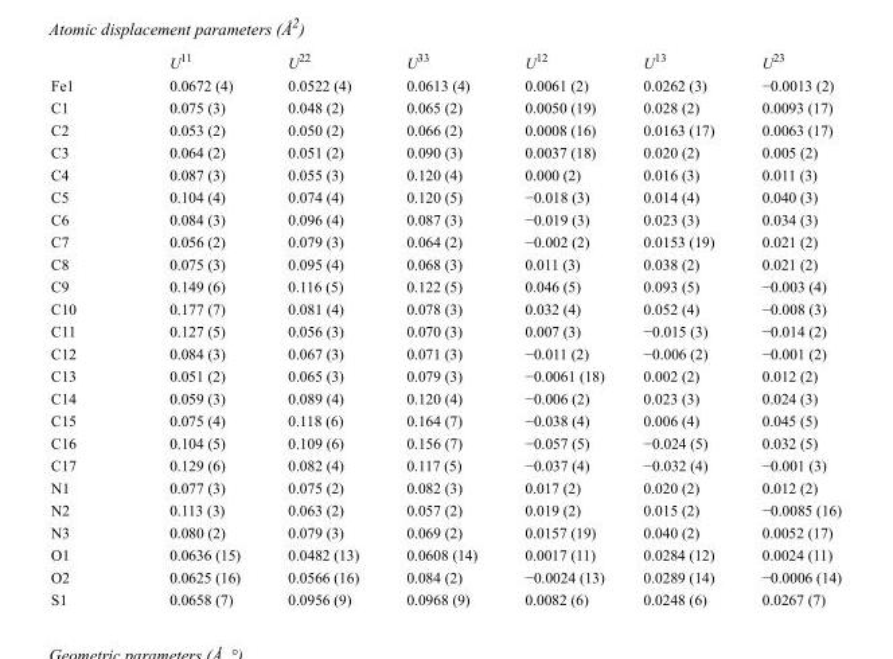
<table><thead><tr><td></td><td>U11</td><td>U22</td><td>U33</td><td>U12</td><td>U13</td><td>U23</td></tr></thead><tbody><tr><td>Fe1</td><td>0.0672 (4)</td><td>0.0522 (4)</td><td>0.0613 (4)</td><td>0.0061 (2)</td><td>0.0262 (3)</td><td>−0.0013 (2)</td></tr><tr><td>C1</td><td>0.075 (3)</td><td>0.048 (2)</td><td>0.065 (2)</td><td>0.0050 (19)</td><td>0.028 (2)</td><td>0.0093 (17)</td></tr><tr><td>C2</td><td>0.053 (2)</td><td>0.050 (2)</td><td>0.066 (2)</td><td>0.0008 (16)</td><td>0.0163 (17)</td><td>0.0063 (17)</td></tr><tr><td>C3</td><td>0.064 (2)</td><td>0.051 (2)</td><td>0.090 (3)</td><td>0.0037 (18)</td><td>0.020 (2)</td><td>0.005 (2)</td></tr><tr><td>C4</td><td>0.087 (3)</td><td>0.055 (3)</td><td>0.120 (4)</td><td>0.000 (2)</td><td>0.016 (3)</td><td>0.011 (3)</td></tr><tr><td>C5</td><td>0.104 (4)</td><td>0.074 (4)</td><td>0.120 (5)</td><td>−0.018 (3)</td><td>0.014 (4)</td><td>0.040 (3)</td></tr><tr><td>C6</td><td>0.084 (3)</td><td>0.096 (4)</td><td>0.087 (3)</td><td>−0.019 (3)</td><td>0.023 (3)</td><td>0.034 (3)</td></tr><tr><td>C7</td><td>0.056 (2)</td><td>0.079 (3)</td><td>0.064 (2)</td><td>−0.002 (2)</td><td>0.0153 (19)</td><td>0.021 (2)</td></tr><tr><td>C8</td><td>0.075 (3)</td><td>0.095 (4)</td><td>0.068 (3)</td><td>0.011 (3)</td><td>0.038 (2)</td><td>0.021 (2)</td></tr><tr><td>C9</td><td>0.149 (6)</td><td>0.116 (5)</td><td>0.122 (5)</td><td>0.046 (5)</td><td>0.093 (5)</td><td>−0.003 (4)</td></tr><tr><td>C10</td><td>0.177 (7)</td><td>0.081 (4)</td><td>0.078 (3)</td><td>0.032 (4)</td><td>0.052 (4)</td><td>−0.008 (3)</td></tr><tr><td>C11</td><td>0.127 (5)</td><td>0.056 (3)</td><td>0.070 (3)</td><td>0.007 (3)</td><td>−0.015 (3)</td><td>−0.014 (2)</td></tr><tr><td>C12</td><td>0.084 (3)</td><td>0.067 (3)</td><td>0.071 (3)</td><td>−0.011 (2)</td><td>−0.006 (2)</td><td>−0.001 (2)</td></tr><tr><td>C13</td><td>0.051 (2)</td><td>0.065 (3)</td><td>0.079 (3)</td><td>−0.0061 (18)</td><td>0.002 (2)</td><td>0.012 (2)</td></tr><tr><td>C14</td><td>0.059 (3)</td><td>0.089 (4)</td><td>0.120 (4)</td><td>−0.006 (2)</td><td>0.023 (3)</td><td>0.024 (3)</td></tr><tr><td>C15</td><td>0.075 (4)</td><td>0.118 (6)</td><td>0.164 (7)</td><td>−0.038 (4)</td><td>0.006 (4)</td><td>0.045 (5)</td></tr><tr><td>C16</td><td>0.104 (5)</td><td>0.109 (6)</td><td>0.156 (7)</td><td>−0.057 (5)</td><td>−0.024 (5)</td><td>0.032 (5)</td></tr><tr><td>C17</td><td>0.129 (6)</td><td>0.082 (4)</td><td>0.117 (5)</td><td>−0.037 (4)</td><td>−0.032 (4)</td><td>−0.001 (3)</td></tr><tr><td>N1</td><td>0.077 (3)</td><td>0.075 (2)</td><td>0.082 (3)</td><td>0.017 (2)</td><td>0.020 (2)</td><td>0.012 (2)</td></tr><tr><td>N2</td><td>0.113 (3)</td><td>0.063 (2)</td><td>0.057 (2)</td><td>0.019 (2)</td><td>0.015 (2)</td><td>−0.0085 (16)</td></tr><tr><td>N3</td><td>0.080 (2)</td><td>0.079 (3)</td><td>0.069 (2)</td><td>0.0157 (19)</td><td>0.040 (2)</td><td>0.0052 (17)</td></tr><tr><td>O1</td><td>0.0636 (15)</td><td>0.0482 (13)</td><td>0.0608 (14)</td><td>0.0017 (11)</td><td>0.0284 (12)</td><td>0.0024 (11)</td></tr><tr><td>O2</td><td>0.0625 (16)</td><td>0.0566 (16)</td><td>0.084 (2)</td><td>−0.0024 (13)</td><td>0.0289 (14)</td><td>−0.0006 (14)</td></tr><tr><td>S1</td><td>0.0658 (7)</td><td>0.0956 (9)</td><td>0.0968 (9)</td><td>0.0082 (6)</td><td>0.0248 (6)</td><td>0.0267 (7)</td></tr></tbody></table>